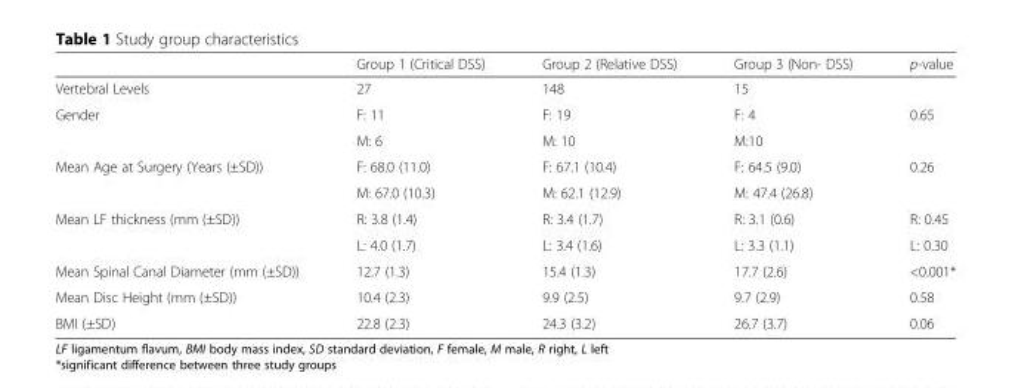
<table><thead><tr><td></td><td>Group 1 (Critical DSS)</td><td>Group 2 (Relative DSS)</td><td>Group 3 (Non- DSS)</td><td>p-value</td></tr></thead><tbody><tr><td>Vertebral Levels</td><td>27</td><td>148</td><td>15</td><td></td></tr><tr><td rowspan="2">Gender</td><td>F: 11</td><td>F: 19</td><td>F: 4</td><td rowspan="2">0.65</td></tr><tr><td>M: 6</td><td>M: 10</td><td>M:10</td></tr><tr><td rowspan="2">Mean Age at Surgery (Years (±SD))</td><td>F: 68.0 (11.0)</td><td>F: 67.1 (10.4)</td><td>F: 64.5 (9.0)</td><td rowspan="2">0.26</td></tr><tr><td>M: 67.0 (10.3)</td><td>M: 62.1 (12.9)</td><td>M: 47.4 (26.8)</td></tr><tr><td rowspan="2">Mean LF thickness (mm (±SD))</td><td>R: 3.8 (1.4)</td><td>R: 3.4 (1.7)</td><td>R: 3.1 (0.6)</td><td>R: 0.45</td></tr><tr><td>L: 4.0 (1.7)</td><td>L: 3.4 (1.6)</td><td>L: 3.3 (1.1)</td><td>L: 0.30</td></tr><tr><td>Mean Spinal Canal Diameter (mm (±SD))</td><td>12.7 (1.3)</td><td>15.4 (1.3)</td><td>17.7 (2.6)</td><td>&lt;0.001*</td></tr><tr><td>Mean Disc Height (mm (±SD))</td><td>10.4 (2.3)</td><td>9.9 (2.5)</td><td>9.7 (2.9)</td><td>0.58</td></tr><tr><td>BMI (±SD)</td><td>22.8 (2.3)</td><td>24.3 (3.2)</td><td>26.7 (3.7)</td><td>0.06</td></tr></tbody></table>